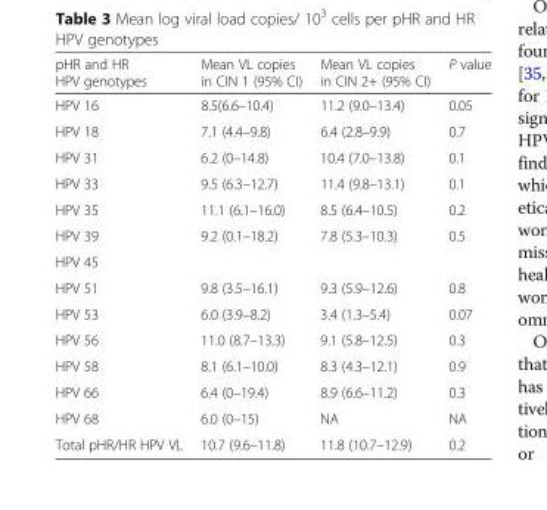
<table><thead><tr><td>pHR and HR HPV genotypes</td><td>Mean VL copies in CIN 1 (95% CI)</td><td>Mean VL copies in CIN 2+ (95% CI)</td><td>P value</td></tr></thead><tbody><tr><td>HPV 16</td><td>8.5(6.6–10.4)</td><td>11.2 (9.0–13.4)</td><td>0.05</td></tr><tr><td>HPV 18</td><td>7.1 (4.4–9.8)</td><td>6.4 (2.8–9.9)</td><td>0.7</td></tr><tr><td>HPV 31</td><td>6.2 (0–14.8)</td><td>10.4 (7.0–13.8)</td><td>0.1</td></tr><tr><td>HPV 33</td><td>9.5 (6.3–12.7)</td><td>11.4 (9.8–13.1)</td><td>0.1</td></tr><tr><td>HPV 35</td><td>11.1 (6.1–16.0)</td><td>8.5 (6.4–10.5)</td><td>0.2</td></tr><tr><td>HPV 39</td><td>9.2 (0.1–18.2)</td><td>7.8 (5.3–10.3)</td><td>0.5</td></tr><tr><td colspan="4">HPV 45</td></tr><tr><td>HPV 51</td><td>9.8 (3.5–16.1)</td><td>9.3 (5.9–12.6)</td><td>0.8</td></tr><tr><td>HPV 53</td><td>6.0 (3.9–8.2)</td><td>3.4 (1.3–5.4)</td><td>0.07</td></tr><tr><td>HPV 56</td><td>11.0 (8.7–13.3)</td><td>9.1 (5.8–12.5)</td><td>0.3</td></tr><tr><td>HPV 58</td><td>8.1 (6.1–10.0)</td><td>8.3 (4.3–12.1)</td><td>0.9</td></tr><tr><td>HPV 66</td><td>6.4 (0–19.4)</td><td>8.9 (6.6–11.2)</td><td>0.3</td></tr><tr><td>HPV 68</td><td>6.0 (0–15)</td><td>NA</td><td>NA</td></tr><tr><td>Total pHR/HR HPV VL</td><td>10.7 (9.6–11.8)</td><td>11.8 (10.7–12.9)</td><td>0.2</td></tr></tbody></table>